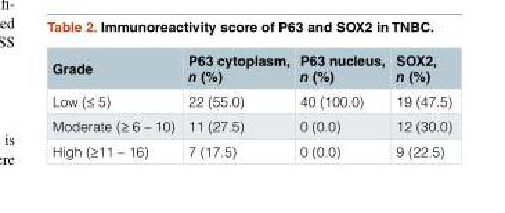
<table><thead><tr><td>Grade</td><td>P63 cytoplasm, n (%)</td><td>P63 nucleus, n (%)</td><td>SOX2, n (%)</td></tr></thead><tbody><tr><td>Low (≤ 5)</td><td>22 (55.0)</td><td>40 (100.0)</td><td>19 (47.5)</td></tr><tr><td>Moderate (≥ 6 – 10)</td><td>11 (27.5)</td><td>0 (0.0)</td><td>12 (30.0)</td></tr><tr><td>High (≥11 – 16)</td><td>7 (17.5)</td><td>0 (0.0)</td><td>9 (22.5)</td></tr></tbody></table>